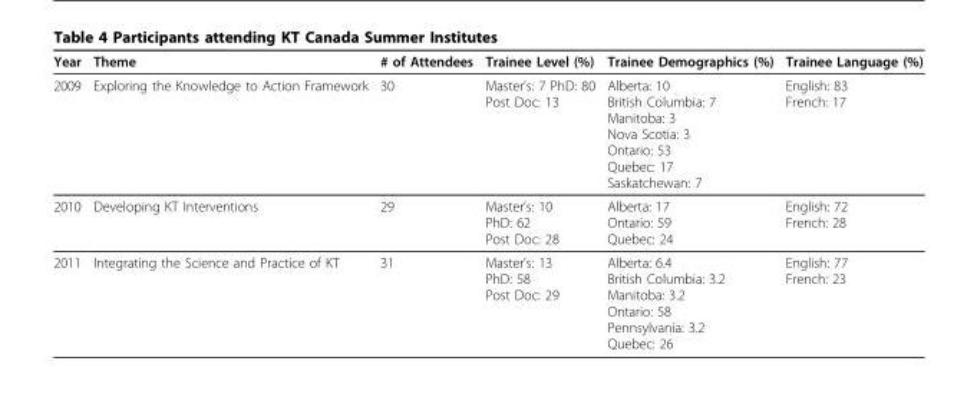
<table><thead><tr><td>Year</td><td>Theme</td><td># of Attendees</td><td>Trainee Level (%)</td><td>Trainee Demographics (%)</td><td>Trainee Language (%)</td></tr></thead><tbody><tr><td>2009</td><td>Exploring the Knowledge to Action Framework</td><td>30</td><td>Master’s: 7 PhD: 80 Post Doc: 13</td><td>Alberta: 10 British Columbia: 7 Manitoba: 3 Nova Scotia: 3 Ontario: 53 Quebec: 17 Saskatchewan: 7</td><td>English: 83 French: 17</td></tr><tr><td>2010</td><td>Developing KT Interventions</td><td>29</td><td>Master’s: 10 PhD: 62 Post Doc: 28</td><td>Alberta: 17 Ontario: 59 Quebec: 24</td><td>English: 72 French: 28</td></tr><tr><td>2011</td><td>Integrating the Science and Practice of KT</td><td>31</td><td>Master’s: 13 PhD: 58 Post Doc: 29</td><td>Alberta: 6.4 British Columbia: 3.2 Manitoba: 3.2 Ontario: 58 Pennsylvania: 3.2 Quebec: 26</td><td>English: 77 French: 23</td></tr></tbody></table>